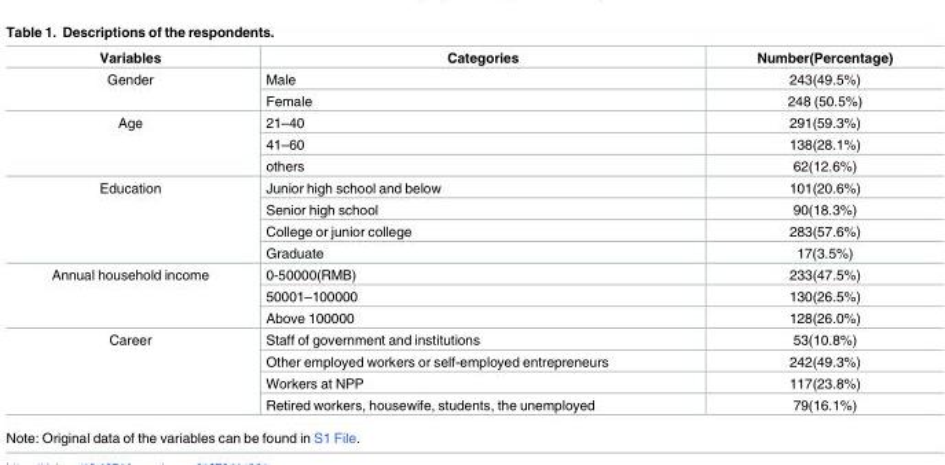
<table><thead><tr><td>Variables</td><td>Categories</td><td>Number(Percentage)</td></tr></thead><tbody><tr><td rowspan="2">Gender</td><td>Male</td><td>243(49.5%)</td></tr><tr><td>Female</td><td>248 (50.5%)</td></tr><tr><td rowspan="3">Age</td><td>21–40</td><td>291(59.3%)</td></tr><tr><td>41–60</td><td>138(28.1%)</td></tr><tr><td>others</td><td>62(12.6%)</td></tr><tr><td rowspan="4">Education</td><td>Junior high school and below</td><td>101(20.6%)</td></tr><tr><td>Senior high school</td><td>90(18.3%)</td></tr><tr><td>College or junior college</td><td>283(57.6%)</td></tr><tr><td>Graduate</td><td>17(3.5%)</td></tr><tr><td rowspan="3">Annual household income</td><td>0-50000(RMB)</td><td>233(47.5%)</td></tr><tr><td>50001–100000</td><td>130(26.5%)</td></tr><tr><td>Above 100000</td><td>128(26.0%)</td></tr><tr><td rowspan="4">Career</td><td>Staff of government and institutions</td><td>53(10.8%)</td></tr><tr><td>Other employed workers or self-employed entrepreneurs</td><td>242(49.3%)</td></tr><tr><td>Workers at NPP</td><td>117(23.8%)</td></tr><tr><td>Retired workers, housewife, students, the unemployed</td><td>79(16.1%)</td></tr></tbody></table>